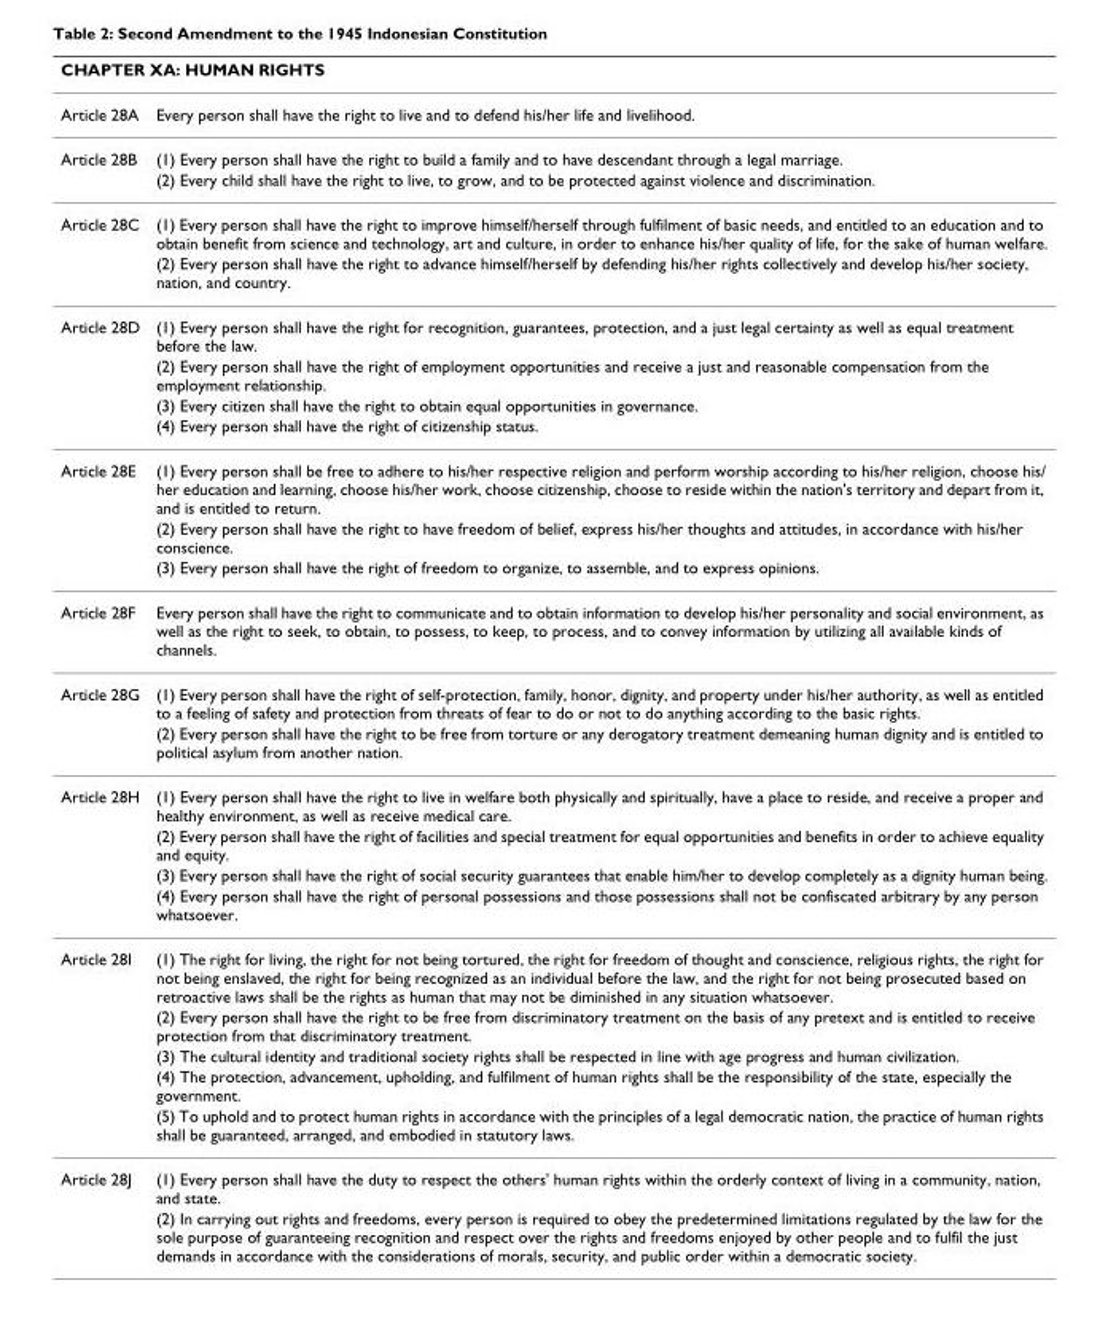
<table><thead><tr><td colspan="2">CHAPTER XA: HUMAN RIGHTS</td></tr><tr><td>Article 28A</td><td>Every person shall have the right to live and to defend his/her life and livelihood.</td></tr></thead><tbody><tr><td rowspan="2">Article 28B</td><td>(1) Every person shall have the right to build a family and to have descendant through a legal marriage.</td></tr><tr><td>(2) Every child shall have the right to live, to grow, and to be protected against violence and discrimination.</td></tr><tr><td rowspan="2">Article 28C</td><td>(1) Every person shall have the right to improve himself/herself through fulfilment of basic needs, and entitled to an education and to obtain benefit from science and technology, art and culture, in order to enhance his/her quality of life, for the sake of human welfare.</td></tr><tr><td>(2) Every person shall have the right to advance himself/herself by defending his/her rights collectively and develop his/her society, nation, and country.</td></tr><tr><td rowspan="4">Article 28D</td><td>(1) Every person shall have the right for recognition, guarantees, protection, and a just legal certainty as well as equal treatment before the law.</td></tr><tr><td>(2) Every person shall have the right of employment opportunities and receive a just and reasonable compensation from the employment relationship.</td></tr><tr><td>(3) Every citizen shall have the right to obtain equal opportunities in governance.</td></tr><tr><td>(4) Every person shall have the right of citizenship status.</td></tr><tr><td rowspan="3">Article 28E</td><td>(1) Every person shall be free to adhere to his/her respective religion and perform worship according to his/her religion, choose his/ her education and learning, choose his/her work, choose citizenship, choose to reside within the nation&#x27;s territory and depart from it, and is entitled to return.</td></tr><tr><td>(2) Every person shall have the right to have freedom of belief, express his/her thoughts and attitudes, in accordance with his/her conscience.</td></tr><tr><td>(3) Every person shall have the right of freedom to organize, to assemble, and to express opinions.</td></tr><tr><td>Article 28F</td><td>Every person shall have the right to communicate and to obtain information to develop his/her personality and social environment, as well as the right to seek, to obtain, to possess, to keep, to process, and to convey information by utilizing all available kinds of channels.</td></tr><tr><td rowspan="2">Article 28G</td><td>(1) Every person shall have the right of self-protection, family, honor, dignity, and property under his/her authority, as well as entitled to a feeling of safety and protection from threats of fear to do or not to do anything according to the basic rights.</td></tr><tr><td>(2) Every person shall have the right to be free from torture or any derogatory treatment demeaning human dignity and is entitled to political asylum from another nation.</td></tr><tr><td rowspan="4">Article 28H</td><td>(1) Every person shall have the right to live in welfare both physically and spiritually, have a place to reside, and receive a proper and healthy environment, as well as receive medical care.</td></tr><tr><td>(2) Every person shall have the right of facilities and special treatment for equal opportunities and benefits in order to achieve equality and equity.</td></tr><tr><td>(3) Every person shall have the right of social security guarantees that enable him/her to develop completely as a dignity human being.</td></tr><tr><td>(4) Every person shall have the right of personal possessions and those possessions shall not be confiscated arbitrary by any person whatsoever.</td></tr><tr><td rowspan="5">Article 28I</td><td>(1) The right for living, the right for not being tortured, the right for freedom of thought and conscience, religious rights, the right for not being enslaved, the right for being recognized as an individual before the law, and the right for not being prosecuted based on retroactive laws shall be the rights as human that may not be diminished in any situation whatsoever.</td></tr><tr><td>(2) Every person shall have the right to be free from discriminatory treatment on the basis of any pretext and is entitled to receive protection from that discriminatory treatment.</td></tr><tr><td>(3) The cultural identity and traditional society rights shall be respected in line with age progress and human civilization.</td></tr><tr><td>(4) The protection, advancement, upholding, and fulfilment of human rights shall be the responsibility of the state, especially the government.</td></tr><tr><td>(5) To uphold and to protect human rights in accordance with the principles of a legal democratic nation, the practice of human rights shall be guaranteed, arranged, and embodied in statutory laws.</td></tr><tr><td rowspan="2">Article 28J</td><td>(1) Every person shall have the duty to respect the others&#x27; human rights within the orderly context of living in a community, nation, and state.</td></tr><tr><td>(2) In carrying out rights and freedoms, every person is required to obey the predetermined limitations regulated by the law for the sole purpose of guaranteeing recognition and respect over the rights and freedoms enjoyed by other people and to fulfil the just demands in accordance with the considerations of morals, security, and public order within a democratic society.</td></tr></tbody></table>